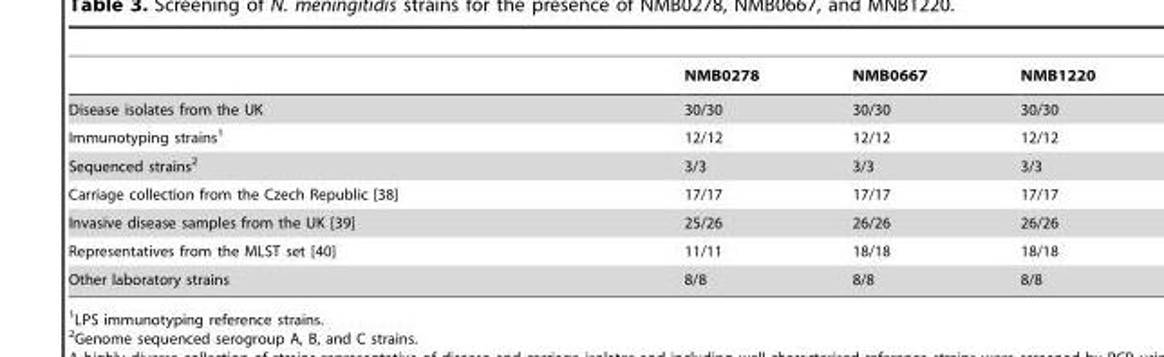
<table><thead><tr><td></td><td>NMB0278</td><td>NMB0667</td><td>NMB1220</td></tr></thead><tbody><tr><td>Disease isolates from the UK</td><td>30/30</td><td>30/30</td><td>30/30</td></tr><tr><td>Immunotyping strains<sup>1</sup></td><td>12/12</td><td>12/12</td><td>12/12</td></tr><tr><td>Sequenced strains<sup>2</sup></td><td>3/3</td><td>3/3</td><td>3/3</td></tr><tr><td>Carriage collection from the Czech Republic [38]</td><td>17/17</td><td>17/17</td><td>17/17</td></tr><tr><td>Invasive disease samples from the UK [39]</td><td>25/26</td><td>26/26</td><td>26/26</td></tr><tr><td>Representatives from the MLST set [40]</td><td>11/11</td><td>18/18</td><td>18/18</td></tr><tr><td>Other laboratory strains</td><td>8/8</td><td>8/8</td><td>8/8</td></tr></tbody></table>